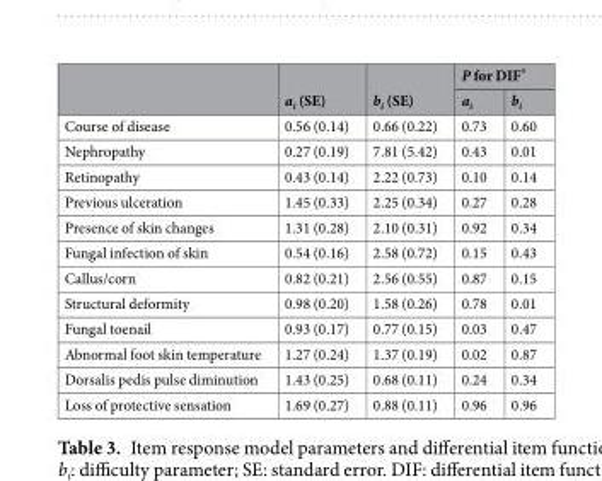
<table><thead><tr><td rowspan="2"></td><td rowspan="2">a<sub>i</sub> (SE)</td><td rowspan="2">b<sub>i</sub> (SE)</td><td colspan="2">P for DIF*</td></tr><tr><td>a<sub>i</sub></td><td>b<sub>i</sub></td></tr></thead><tbody><tr><td>Course of disease</td><td>0.56 (0.14)</td><td>0.66 (0.22)</td><td>0.73</td><td>0.60</td></tr><tr><td>Nephropathy</td><td>0.27 (0.19)</td><td>7.81 (5.42)</td><td>0.43</td><td>0.01</td></tr><tr><td>Retinopathy</td><td>0.43 (0.14)</td><td>2.22 (0.73)</td><td>0.10</td><td>0.14</td></tr><tr><td>Previous ulceration</td><td>1.45 (0.33)</td><td>2.25 (0.34)</td><td>0.27</td><td>0.28</td></tr><tr><td>Presence of skin changes</td><td>1.31 (0.28)</td><td>2.10 (0.31)</td><td>0.92</td><td>0.34</td></tr><tr><td>Fungal infection of skin</td><td>0.54 (0.16)</td><td>2.58 (0.72)</td><td>0.15</td><td>0.43</td></tr><tr><td>Callus/corn</td><td>0.82 (0.21)</td><td>2.56 (0.55)</td><td>0.87</td><td>0.15</td></tr><tr><td>Structural deformity</td><td>0.98 (0.20)</td><td>1.58 (0.26)</td><td>0.78</td><td>0.01</td></tr><tr><td>Fungal toenail</td><td>0.93 (0.17)</td><td>0.77 (0.15)</td><td>0.03</td><td>0.47</td></tr><tr><td>Abnormal foot skin temperature</td><td>1.27 (0.24)</td><td>1.37 (0.19)</td><td>0.02</td><td>0.87</td></tr><tr><td>Dorsalis pedis pulse diminution</td><td>1.43 (0.25)</td><td>0.68 (0.11)</td><td>0.24</td><td>0.34</td></tr><tr><td>Loss of protective sensation</td><td>1.69 (0.27)</td><td>0.88 (0.11)</td><td>0.96</td><td>0.96</td></tr></tbody></table>